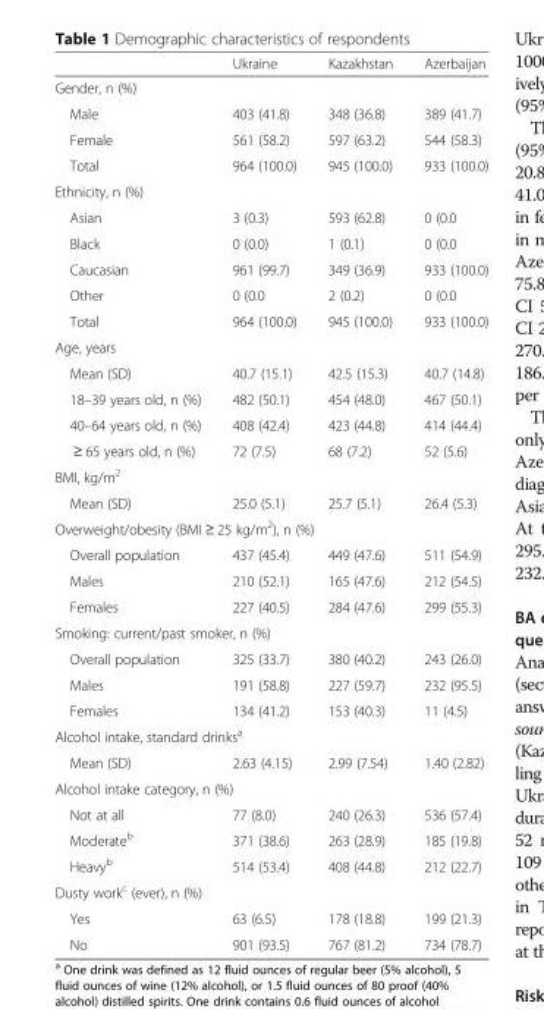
<table><thead><tr><td></td><td>Ukraine</td><td>Kazakhstan</td><td>Azerbaijan</td></tr></thead><tbody><tr><td colspan="4">Gender, n (%)</td></tr><tr><td>Male</td><td>403 (41.8)</td><td>348 (36.8)</td><td>389 (41.7)</td></tr><tr><td>Female</td><td>561 (58.2)</td><td>597 (63.2)</td><td>544 (58.3)</td></tr><tr><td>Total</td><td>964 (100.0)</td><td>945 (100.0)</td><td>933 (100.0)</td></tr><tr><td colspan="4">Ethnicity, n (%)</td></tr><tr><td>Asian</td><td>3 (0.3)</td><td>593 (62.8)</td><td>0 (0.0</td></tr><tr><td>Black</td><td>0 (0.0)</td><td>1 (0.1)</td><td>0 (0.0</td></tr><tr><td>Caucasian</td><td>961 (99.7)</td><td>349 (36.9)</td><td>933 (100.0)</td></tr><tr><td>Other</td><td>0 (0.0</td><td>2 (0.2)</td><td>0 (0.0</td></tr><tr><td>Total</td><td>964 (100.0)</td><td>945 (100.0)</td><td>933 (100.0)</td></tr><tr><td colspan="4">Age, years</td></tr><tr><td>Mean (SD)</td><td>40.7 (15.1)</td><td>42.5 (15.3)</td><td>40.7 (14.8)</td></tr><tr><td>18–39 years old, n (%)</td><td>482 (50.1)</td><td>454 (48.0)</td><td>467 (50.1)</td></tr><tr><td>40–64 years old, n (%)</td><td>408 (42.4)</td><td>423 (44.8)</td><td>414 (44.4)</td></tr><tr><td>≥ 65 years old, n (%)</td><td>72 (7.5)</td><td>68 (7.2)</td><td>52 (5.6)</td></tr><tr><td colspan="4">BMI, kg/m<sup>2</sup></td></tr><tr><td>Mean (SD)</td><td>25.0 (5.1)</td><td>25.7 (5.1)</td><td>26.4 (5.3)</td></tr><tr><td colspan="4">Overweight/obesity (BMI ≥ 25 kg/m<sup>2</sup>), n (%)</td></tr><tr><td>Overall population</td><td>437 (45.4)</td><td>449 (47.6)</td><td>511 (54.9)</td></tr><tr><td>Males</td><td>210 (52.1)</td><td>165 (47.6)</td><td>212 (54.5)</td></tr><tr><td>Females</td><td>227 (40.5)</td><td>284 (47.6)</td><td>299 (55.3)</td></tr><tr><td colspan="4">Smoking: current/past smoker, n (%)</td></tr><tr><td>Overall population</td><td>325 (33.7)</td><td>380 (40.2)</td><td>243 (26.0)</td></tr><tr><td>Males</td><td>191 (58.8)</td><td>227 (59.7)</td><td>232 (95.5)</td></tr><tr><td>Females</td><td>134 (41.2)</td><td>153 (40.3)</td><td>11 (4.5)</td></tr><tr><td colspan="4">Alcohol intake, standard drinks<sup>a</sup></td></tr><tr><td>Mean (SD)</td><td>2.63 (4.15)</td><td>2.99 (7.54)</td><td>1.40 (2.82)</td></tr><tr><td colspan="4">Alcohol intake category, n (%)</td></tr><tr><td>Not at all</td><td>77 (8.0)</td><td>240 (26.3)</td><td>536 (57.4)</td></tr><tr><td>Moderate<sup>b</sup></td><td>371 (38.6)</td><td>263 (28.9)</td><td>185 (19.8)</td></tr><tr><td>Heavy<sup>b</sup></td><td>514 (53.4)</td><td>408 (44.8)</td><td>212 (22.7)</td></tr><tr><td colspan="4">Dusty work<sup>c</sup> (ever), n (%)</td></tr><tr><td>Yes</td><td>63 (6.5)</td><td>178 (18.8)</td><td>199 (21.3)</td></tr><tr><td>No</td><td>901 (93.5)</td><td>767 (81.2)</td><td>734 (78.7)</td></tr></tbody></table>